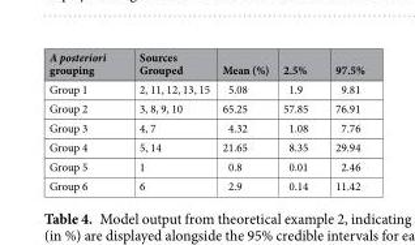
<table><thead><tr><td>A posteriori grouping</td><td>Sources Grouped</td><td>Mean (%)</td><td>2.5%</td><td>97.5%</td></tr></thead><tbody><tr><td>Group 1</td><td>2, 11, 12, 13, 15</td><td>5.08</td><td>1.9</td><td>9.81</td></tr><tr><td>Group 2</td><td>3, 8, 9, 10</td><td>65.25</td><td>57.85</td><td>76.91</td></tr><tr><td>Group 3</td><td>4, 7</td><td>4.32</td><td>1.08</td><td>7.76</td></tr><tr><td>Group 4</td><td>5, 14</td><td>21.65</td><td>8.35</td><td>29.94</td></tr><tr><td>Group 5</td><td>1</td><td>0.8</td><td>0.01</td><td>2.46</td></tr><tr><td>Group 6</td><td>6</td><td>2.9</td><td>0.14</td><td>11.42</td></tr></tbody></table>